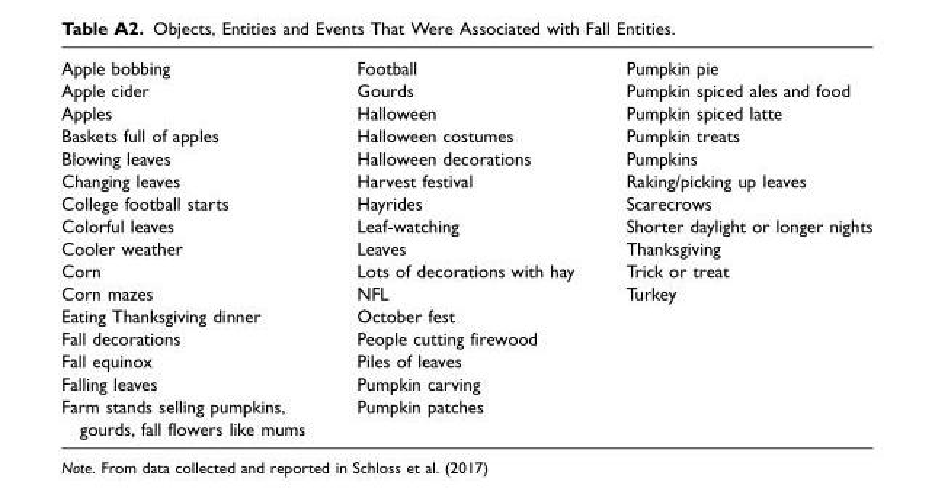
<table><tbody><tr><td>Apple bobbing</td><td>Football</td><td>Pumpkin pie</td></tr><tr><td>Apple cider</td><td>Gourds</td><td>Pumpkin spiced ales and food</td></tr><tr><td>Apples</td><td>Halloween</td><td>Pumpkin spiced latte</td></tr><tr><td>Baskets full of apples</td><td>Halloween costumes</td><td>Pumpkin treats</td></tr><tr><td>Blowing leaves</td><td>Halloween decorations</td><td>Pumpkins</td></tr><tr><td>Changing leaves</td><td>Harvest festival</td><td>Raking/picking up leaves</td></tr><tr><td>College football starts</td><td>Hayrides</td><td>Scarecrows</td></tr><tr><td>Colorful leaves</td><td>Leaf-watching</td><td>Shorter daylight or longer nights</td></tr><tr><td>Cooler weather</td><td>Leaves</td><td>Thanksgiving</td></tr><tr><td>Corn</td><td>Lots of decorations with hay</td><td>Trick or treat</td></tr><tr><td>Corn mazes</td><td>NFL</td><td>Turkey</td></tr><tr><td>Eating Thanksgiving dinner</td><td>October fest</td><td></td></tr><tr><td>Fall decorations</td><td>People cutting firewood</td><td></td></tr><tr><td>Fall equinox</td><td>Piles of leaves</td><td></td></tr><tr><td>Falling leaves</td><td>Pumpkin carving</td><td></td></tr><tr><td>Farm stands selling pumpkins, gourds, fall flowers like mums</td><td>Pumpkin patches</td><td></td></tr></tbody></table>